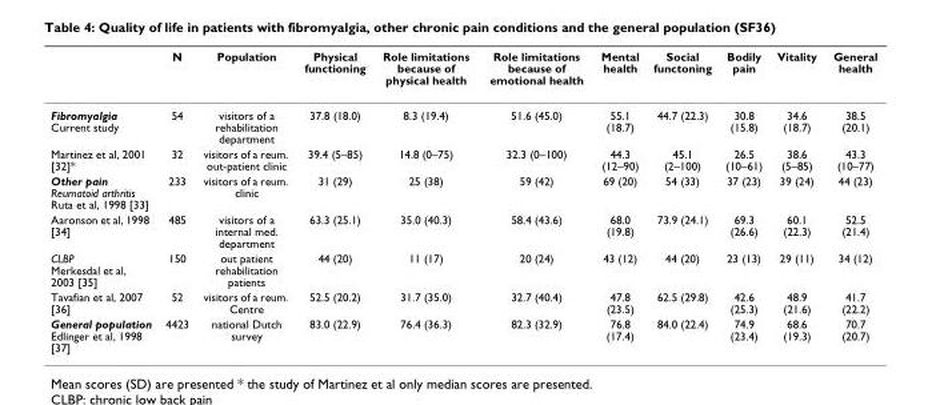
<table><thead><tr><td></td><td>N</td><td>Population</td><td>Physical functioning</td><td>Role limitations because of physical health</td><td>Role limitations because of emotional health</td><td>Mental health</td><td>Social functoning</td><td>Bodily pain</td><td>Vitality</td><td>General health</td></tr></thead><tbody><tr><td>Fibromyalgia Current study</td><td>54</td><td>visitors of a rehabilitation department</td><td>37.8 (18.0)</td><td>8.3 (19.4)</td><td>51.6 (45.0)</td><td>55.1 (18.7)</td><td>44.7 (22.3)</td><td>30.8 (15.8)</td><td>34.6 (18.7)</td><td>38.5 (20.1)</td></tr><tr><td>Martinez et al, 2001 [32]*</td><td>32</td><td>visitors of a reum. out-patient clinic</td><td>39.4 (5–85)</td><td>14.8 (0–75)</td><td>32.3 (0–100)</td><td>44.3 (12–90)</td><td>45.1 (2–100)</td><td>26.5 (10–61)</td><td>38.6 (5–85)</td><td>43.3 (10–77)</td></tr><tr><td>Other pain Reumatoid arthritis Ruta et al, 1998 [33]</td><td>233</td><td>visitors of a reum. clinic</td><td>31 (29)</td><td>25 (38)</td><td>59 (42)</td><td>69 (20)</td><td>54 (33)</td><td>37 (23)</td><td>39 (24)</td><td>44 (23)</td></tr><tr><td>Aaronson et al, 1998 [34]</td><td>485</td><td>visitors of a internal med. department</td><td>63.3 (25.1)</td><td>35.0 (40.3)</td><td>58.4 (43.6)</td><td>68.0 (19.8)</td><td>73.9 (24.1)</td><td>69.3 (26.6)</td><td>60.1 (22.3)</td><td>52.5 (21.4)</td></tr><tr><td>CLBP Merkesdal et al, 2003 [35]</td><td>150</td><td>out patient rehabilitation patients</td><td>44 (20)</td><td>11 (17)</td><td>20 (24)</td><td>43 (12)</td><td>44 (20)</td><td>23 (13)</td><td>29 (11)</td><td>34 (12)</td></tr><tr><td>Tavafian et al, 2007 [36]</td><td>52</td><td>visitors of a reum. Centre</td><td>52.5 (20.2)</td><td>31.7 (35.0)</td><td>32.7 (40.4)</td><td>47.8 (23.5)</td><td>62.5 (29.8)</td><td>42.6 (25.3)</td><td>48.9 (21.6)</td><td>41.7 (22.2)</td></tr><tr><td>General population Edlinger et al, 1998 [37]</td><td>4423</td><td>national Dutch survey</td><td>83.0 (22.9)</td><td>76.4 (36.3)</td><td>82.3 (32.9)</td><td>76.8 (17.4)</td><td>84.0 (22.4)</td><td>74.9 (23.4)</td><td>68.6 (19.3)</td><td>70.7 (20.7)</td></tr></tbody></table>